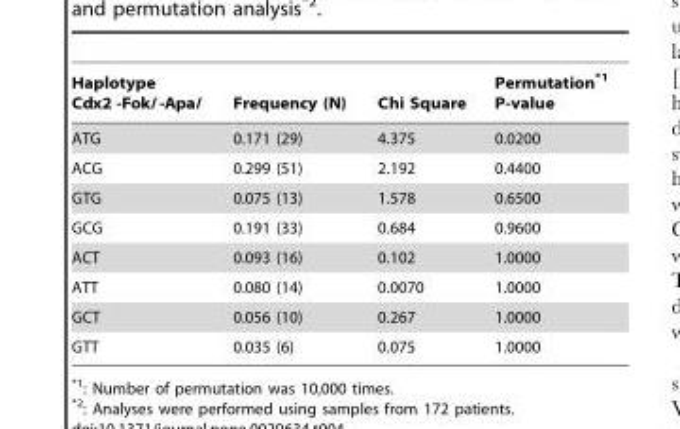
<table><thead><tr><td>Haplotype Cdx2 -FokI -ApaI</td><td>Frequency (N)</td><td>Chi Square</td><td>Permutation*1 P-value</td></tr></thead><tbody><tr><td>ATG</td><td>0.171 (29)</td><td>4.375</td><td>0.0200</td></tr><tr><td>ACG</td><td>0.299 (51)</td><td>2.192</td><td>0.4400</td></tr><tr><td>GTG</td><td>0.075 (13)</td><td>1.578</td><td>0.6500</td></tr><tr><td>GCG</td><td>0.191 (33)</td><td>0.684</td><td>0.9600</td></tr><tr><td>ACT</td><td>0.093 (16)</td><td>0.102</td><td>1.0000</td></tr><tr><td>ATT</td><td>0.080 (14)</td><td>0.0070</td><td>1.0000</td></tr><tr><td>GCT</td><td>0.056 (10)</td><td>0.267</td><td>1.0000</td></tr><tr><td>GTT</td><td>0.035 (6)</td><td>0.075</td><td>1.0000</td></tr></tbody></table>